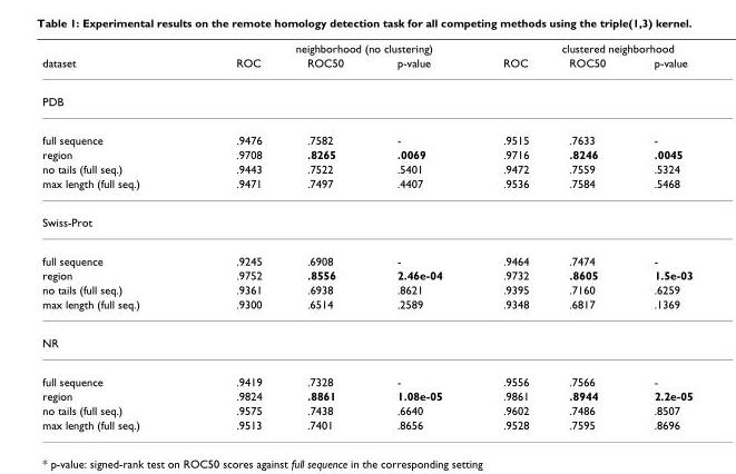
<table><thead><tr><td rowspan="2">dataset</td><td colspan="3">neighborhood (no clustering)</td><td colspan="3">clustered neighborhood</td></tr><tr><td>ROC</td><td>ROC50</td><td>p-value</td><td>ROC</td><td>ROC50</td><td>p-value</td></tr></thead><tbody><tr><td colspan="7">PDB</td></tr><tr><td>full sequence</td><td>.9476</td><td>.7582</td><td>-</td><td>.9515</td><td>.7633</td><td>-</td></tr><tr><td>region</td><td>.9708</td><td>.8265</td><td>.0069</td><td>.9716</td><td>.8246</td><td>.0045</td></tr><tr><td>no tails (full seq.)</td><td>.9443</td><td>.7522</td><td>.5401</td><td>.9472</td><td>.7559</td><td>.5324</td></tr><tr><td>max length (full seq.)</td><td>.9471</td><td>.7497</td><td>.4407</td><td>.9536</td><td>.7584</td><td>.5468</td></tr><tr><td colspan="7">Swiss-Prot</td></tr><tr><td>full sequence</td><td>.9245</td><td>.6908</td><td>-</td><td>.9464</td><td>.7474</td><td>-</td></tr><tr><td>region</td><td>.9752</td><td>.8556</td><td>2.46e-04</td><td>.9732</td><td>.8605</td><td>1.5e-03</td></tr><tr><td>no tails (full seq.)</td><td>.9361</td><td>.6938</td><td>.8621</td><td>.9395</td><td>.7160</td><td>.6259</td></tr><tr><td>max length (full seq.)</td><td>.9300</td><td>.6514</td><td>.2589</td><td>.9348</td><td>.6817</td><td>.1369</td></tr><tr><td colspan="7">NR</td></tr><tr><td>full sequence</td><td>.9419</td><td>.7328</td><td>-</td><td>.9556</td><td>.7566</td><td>-</td></tr><tr><td>region</td><td>.9824</td><td>.8861</td><td>1.08e-05</td><td>.9861</td><td>.8944</td><td>2.2e-05</td></tr><tr><td>no tails (full seq.)</td><td>.9575</td><td>.7438</td><td>.6640</td><td>.9602</td><td>.7486</td><td>.8507</td></tr><tr><td>max length (full seq.)</td><td>.9513</td><td>.7401</td><td>.8656</td><td>.9528</td><td>.7595</td><td>.8696</td></tr></tbody></table>